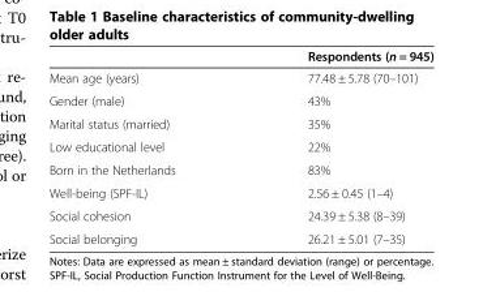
<table><thead><tr><td></td><td>Respondents (n = 945)</td></tr></thead><tbody><tr><td>Mean age (years)</td><td>77.48 ± 5.78 (70–101)</td></tr><tr><td>Gender (male)</td><td>43%</td></tr><tr><td>Marital status (married)</td><td>35%</td></tr><tr><td>Low educational level</td><td>22%</td></tr><tr><td>Born in the Netherlands</td><td>83%</td></tr><tr><td>Well-being (SPF-IL)</td><td>2.56 ± 0.45 (1–4)</td></tr><tr><td>Social cohesion</td><td>24.39 ± 5.38 (8–39)</td></tr><tr><td>Social belonging</td><td>26.21 ± 5.01 (7–35)</td></tr></tbody></table>